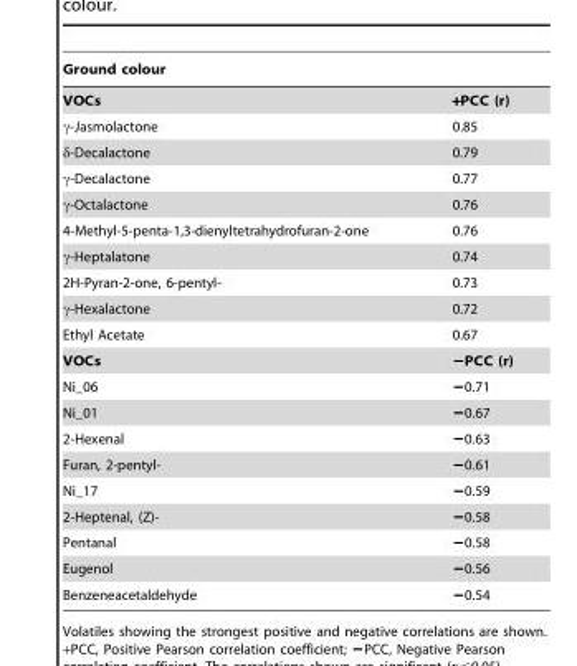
<table><thead><tr><td colspan="2">Ground colour</td></tr><tr><td>VOCs</td><td>+PCC (r)</td></tr></thead><tbody><tr><td>γ-Jasmolactone</td><td>0.85</td></tr><tr><td>δ-Decalactone</td><td>0.79</td></tr><tr><td>γ-Decalactone</td><td>0.77</td></tr><tr><td>γ-Octalactone</td><td>0.76</td></tr><tr><td>4-Methyl-5-penta-1,3-dienyltetrahydrofuran-2-one</td><td>0.76</td></tr><tr><td>γ-Heptalatone</td><td>0.74</td></tr><tr><td>2H-Pyran-2-one, 6-pentyl-</td><td>0.73</td></tr><tr><td>γ-Hexalactone</td><td>0.72</td></tr><tr><td>Ethyl Acetate</td><td>0.67</td></tr><tr><td>VOCs</td><td>−PCC (r)</td></tr><tr><td>Ni_06</td><td>−0.71</td></tr><tr><td>Ni_01</td><td>−0.67</td></tr><tr><td>2-Hexenal</td><td>−0.63</td></tr><tr><td>Furan, 2-pentyl-</td><td>−0.61</td></tr><tr><td>Ni_17</td><td>−0.59</td></tr><tr><td>2-Heptenal, (Z)-</td><td>−0.58</td></tr><tr><td>Pentanal</td><td>−0.58</td></tr><tr><td>Eugenol</td><td>−0.56</td></tr><tr><td>Benzeneacetaldehyde</td><td>−0.54</td></tr></tbody></table>